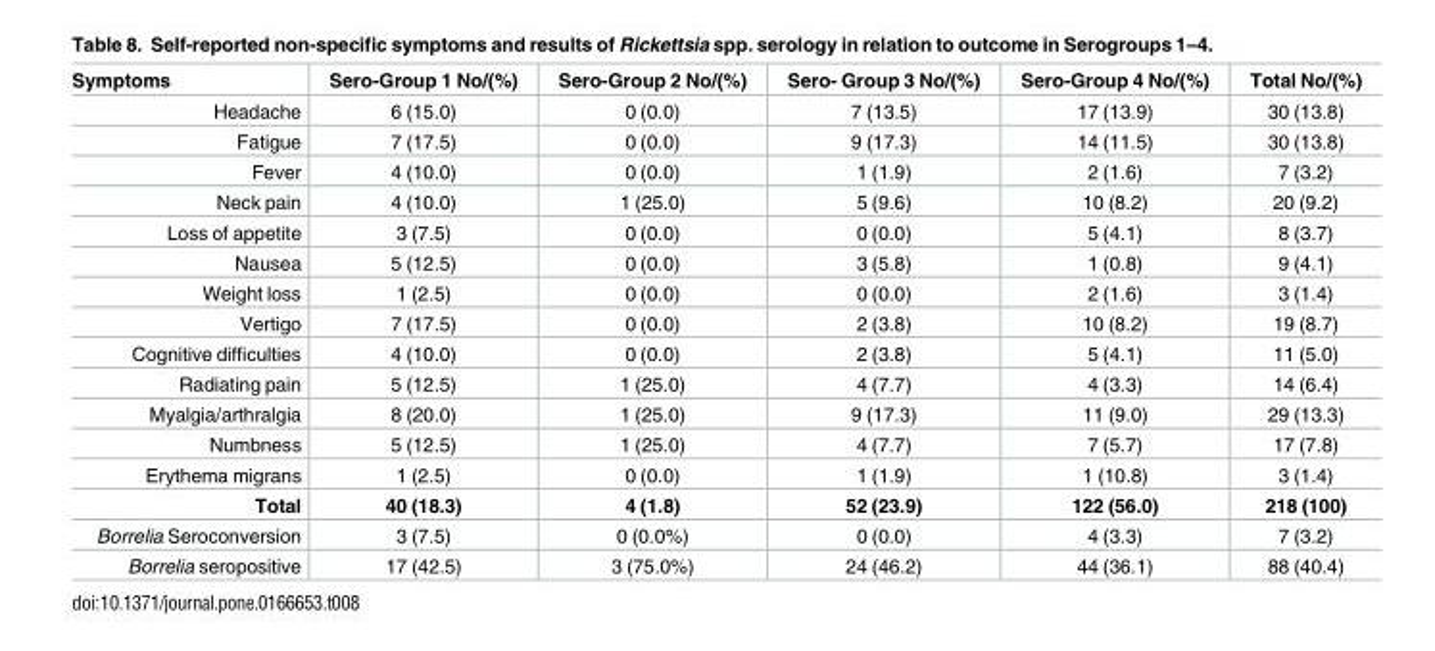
<table><thead><tr><td>Symptoms</td><td>Sero-Group 1 No/(%)</td><td>Sero-Group 2 No/(%)</td><td>Sero- Group 3 No/(%)</td><td>Sero-Group 4 No/(%)</td><td>Total No/(%)</td></tr></thead><tbody><tr><td>Headache</td><td>6 (15.0)</td><td>0 (0.0)</td><td>7 (13.5)</td><td>17 (13.9)</td><td>30 (13.8)</td></tr><tr><td>Fatigue</td><td>7 (17.5)</td><td>0 (0.0)</td><td>9 (17.3)</td><td>14 (11.5)</td><td>30 (13.8)</td></tr><tr><td>Fever</td><td>4 (10.0)</td><td>0 (0.0)</td><td>1 (1.9)</td><td>2 (1.6)</td><td>7 (3.2)</td></tr><tr><td>Neck pain</td><td>4 (10.0)</td><td>1 (25.0)</td><td>5 (9.6)</td><td>10 (8.2)</td><td>20 (9.2)</td></tr><tr><td>Loss of appetite</td><td>3 (7.5)</td><td>0 (0.0)</td><td>0 (0.0)</td><td>5 (4.1)</td><td>8 (3.7)</td></tr><tr><td>Nausea</td><td>5 (12.5)</td><td>0 (0.0)</td><td>3 (5.8)</td><td>1 (0.8)</td><td>9 (4.1)</td></tr><tr><td>Weight loss</td><td>1 (2.5)</td><td>0 (0.0)</td><td>0 (0.0)</td><td>2 (1.6)</td><td>3 (1.4)</td></tr><tr><td>Vertigo</td><td>7 (17.5)</td><td>0 (0.0)</td><td>2 (3.8)</td><td>10 (8.2)</td><td>19 (8.7)</td></tr><tr><td>Cognitive difficulties</td><td>4 (10.0)</td><td>0 (0.0)</td><td>2 (3.8)</td><td>5 (4.1)</td><td>11 (5.0)</td></tr><tr><td>Radiating pain</td><td>5 (12.5)</td><td>1 (25.0)</td><td>4 (7.7)</td><td>4 (3.3)</td><td>14 (6.4)</td></tr><tr><td>Myalgia/arthralgia</td><td>8 (20.0)</td><td>1 (25.0)</td><td>9 (17.3)</td><td>11 (9.0)</td><td>29 (13.3)</td></tr><tr><td>Numbness</td><td>5 (12.5)</td><td>1 (25.0)</td><td>4 (7.7)</td><td>7 (5.7)</td><td>17 (7.8)</td></tr><tr><td>Erythema migrans</td><td>1 (2.5)</td><td>0 (0.0)</td><td>1 (1.9)</td><td>1 (10.8)</td><td>3 (1.4)</td></tr><tr><td>Total</td><td>40 (18.3)</td><td>4 (1.8)</td><td>52 (23.9)</td><td>122 (56.0)</td><td>218 (100)</td></tr><tr><td>Borrelia Seroconversion</td><td>3 (7.5)</td><td>0 (0.0%)</td><td>0 (0.0)</td><td>4 (3.3)</td><td>7 (3.2)</td></tr><tr><td>Borrelia seropositive</td><td>17 (42.5)</td><td>3 (75.0%)</td><td>24 (46.2)</td><td>44 (36.1)</td><td>88 (40.4)</td></tr></tbody></table>